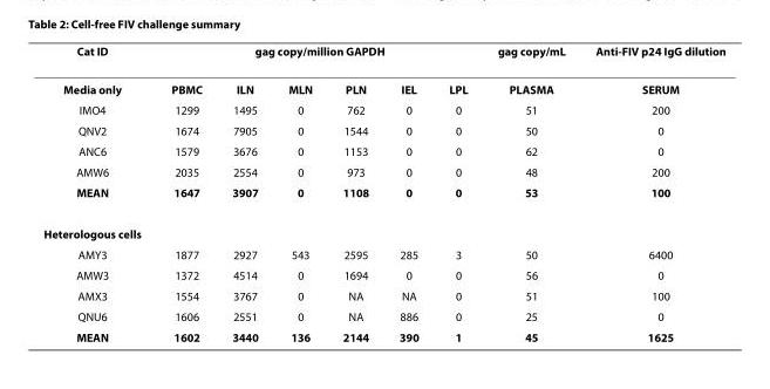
<table><thead><tr><td rowspan="2">Cat ID Media only</td><td colspan="6">gag copy/million GAPDH</td><td rowspan="2">gag copy/mL PLASMA</td><td rowspan="2">Anti-FIV p24 IgG dilution SERUM</td></tr><tr><td>PBMC</td><td>ILN</td><td>MLN</td><td>PLN</td><td>IEL</td><td>LPL</td></tr></thead><tbody><tr><td>IMO4</td><td>1299</td><td>1495</td><td>0</td><td>762</td><td>0</td><td>0</td><td>51</td><td>200</td></tr><tr><td>QNV2</td><td>1674</td><td>7905</td><td>0</td><td>1544</td><td>0</td><td>0</td><td>50</td><td>0</td></tr><tr><td>ANC6</td><td>1579</td><td>3676</td><td>0</td><td>1153</td><td>0</td><td>0</td><td>62</td><td>0</td></tr><tr><td>AMW6</td><td>2035</td><td>2554</td><td>0</td><td>973</td><td>0</td><td>0</td><td>48</td><td>200</td></tr><tr><td>MEAN</td><td>1647</td><td>3907</td><td>0</td><td>1108</td><td>0</td><td>0</td><td>53</td><td>100</td></tr><tr><td colspan="9">Heterologous cells</td></tr><tr><td>AMY3</td><td>1877</td><td>2927</td><td>543</td><td>2595</td><td>285</td><td>3</td><td>50</td><td>6400</td></tr><tr><td>AMW3</td><td>1372</td><td>4514</td><td>0</td><td>1694</td><td>0</td><td>0</td><td>56</td><td>0</td></tr><tr><td>AMX3</td><td>1554</td><td>3767</td><td>0</td><td>NA</td><td>NA</td><td>0</td><td>51</td><td>100</td></tr><tr><td>QNU6</td><td>1606</td><td>2551</td><td>0</td><td>NA</td><td>886</td><td>0</td><td>25</td><td>0</td></tr><tr><td>MEAN</td><td>1602</td><td>3440</td><td>136</td><td>2144</td><td>390</td><td>1</td><td>45</td><td>1625</td></tr></tbody></table>